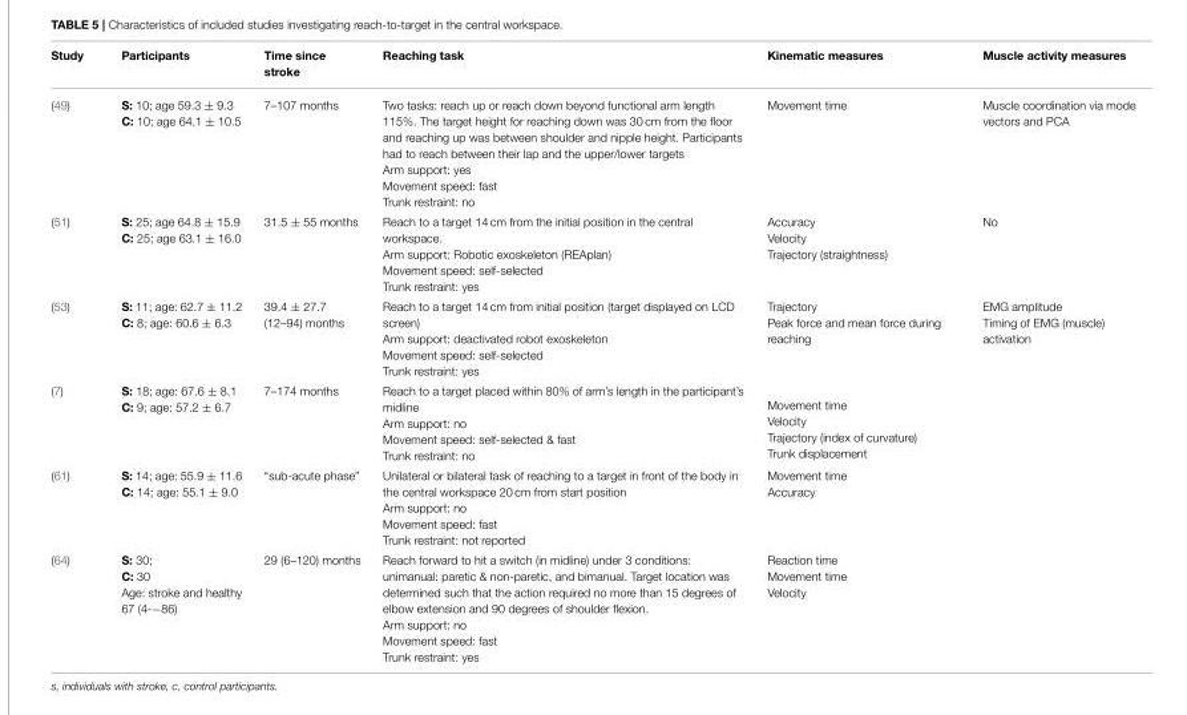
<table><thead><tr><td>Study</td><td>Participants</td><td>Time since stroke</td><td>Reaching task</td><td>Kinematic measures</td><td>Muscle activity measures</td></tr></thead><tbody><tr><td>(49)</td><td>S: 10; age 59.3 ± 9.3 C: 10; age 64.1 ± 10.5</td><td>7–107 months</td><td>Two tasks: reach up or reach down beyond functional arm length 115%. The target height for reaching down was 30 cm from the floor and reaching up was between shoulder and nipple height. Participants had to reach between their lap and the upper/lower targets Arm support: yes Movement speed: fast Trunk restraint: no</td><td>Movement time</td><td>Muscle coordination via mode vectors and PCA</td></tr><tr><td>(51)</td><td>S: 25; age 64.8 ± 15.9 C: 25; age 63.1 ± 16.0</td><td>31.5 ± 55 months</td><td>Reach to a target 14 cm from the initial position in the central workspace. Arm support: Robotic exoskeleton (REAplan) Movement speed: self-selected Trunk restraint: yes</td><td>Accuracy Velocity Trajectory (straightness)</td><td>No</td></tr><tr><td>(53)</td><td>S: 11; age: 62.7 ± 11.2 C: 8; age: 60.6 ± 6.3</td><td>39.4 ± 27.7 (12–94) months</td><td>Reach to a target 14 cm from initial position (target displayed on LCD screen) Arm support: deactivated robot exoskeleton Movement speed: self-selected Trunk restraint: yes</td><td>Trajectory Peak force and mean force during reaching</td><td>EMG amplitude Timing of EMG (muscle) activation</td></tr><tr><td>(7)</td><td>S: 18; age: 67.6 ± 8.1 C: 9; age: 57.2 ± 6.7</td><td>7–174 months</td><td>Reach to a target placed within 80% of arm’s length in the participant’s midline Arm support: no Movement speed: self-selected &amp; fast Trunk restraint: no</td><td>Movement time Velocity Trajectory (index of curvature) Trunk displacement</td><td></td></tr><tr><td>(61)</td><td>S: 14; age: 55.9 ± 11.6 C: 14; age: 55.1 ± 9.0</td><td>“sub-acute phase”</td><td>Unilateral or bilateral task of reaching to a target in front of the body in the central workspace 20 cm from start position Arm support: no Movement speed: fast Trunk restraint: not reported</td><td>Movement time Accuracy</td><td></td></tr><tr><td>(64)</td><td>S: 30; C: 30 Age: stroke and healthy 67 (4-−86)</td><td>29 (6–120) months</td><td>Reach forward to hit a switch (in midline) under 3 conditions: unimanual: paretic &amp; non-paretic, and bimanual. Target location was determined such that the action required no more than 15 degrees of elbow extension and 90 degrees of shoulder flexion. Arm support: no Movement speed: fast Trunk restraint: yes</td><td>Reaction time Movement time Velocity</td><td></td></tr></tbody></table>